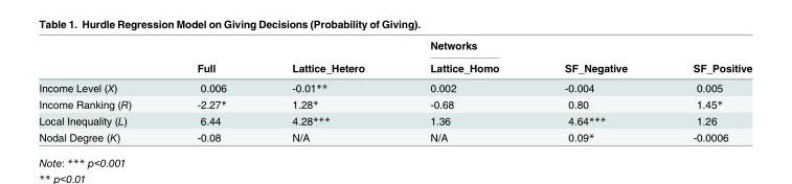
<table><thead><tr><td rowspan="2"></td><td rowspan="2">Full</td><td rowspan="2">Lattice_Hetero</td><td rowspan="2">Networks Lattice_Homo</td><td rowspan="2">SF_Negative</td><td rowspan="2">SF_Positive</td></tr><tr></tr></thead><tbody><tr><td>Income Level (X)</td><td>0.006</td><td>-0.01**</td><td>0.002</td><td>-0.004</td><td>0.005</td></tr><tr><td>Income Ranking (R)</td><td>-2.27*</td><td>1.28*</td><td>-0.68</td><td>0.80</td><td>1.45*</td></tr><tr><td>Local Inequality (L)</td><td>6.44</td><td>4.28***</td><td>1.36</td><td>4.64***</td><td>1.26</td></tr><tr><td>Nodal Degree (K)</td><td>-0.08</td><td>N/A</td><td>N/A</td><td>0.09*</td><td>-0.0006</td></tr></tbody></table>